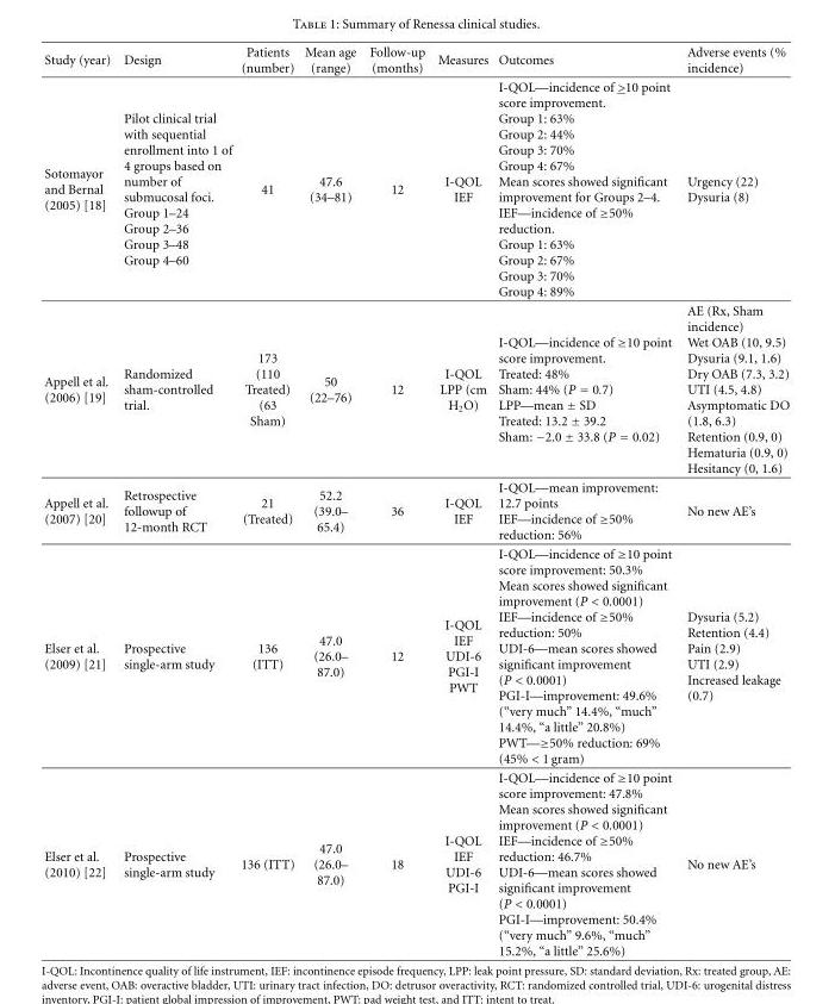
<table><thead><tr><td>Study (year)</td><td>Design</td><td>Patients (number)</td><td>Mean age (range)</td><td>Follow-up (months)</td><td>Measures</td><td>Outcomes</td><td>Adverse events (% incidence)</td></tr></thead><tbody><tr><td>Sotomayor and Bernal (2005) [18]</td><td>Pilot clinical trial with sequential enrollment into 1 of 4 groups based on number of submucosal foci. Group 1–24 Group 2–36 Group 3–48 Group 4–60</td><td>41</td><td>47.6 (34–81)</td><td>12</td><td>I-QOL IEF</td><td>I-QOL—incidence of &gt;10 point score improvement. Group 1: 63% Group 2: 44% Group 3: 70% Group 4: 67% Mean scores showed significant improvement for Groups 2–4. IEF—incidence of ≥50% reduction. Group 1: 63% Group 2: 67% Group 3: 70% Group 4: 89%</td><td>Urgency (22) Dysuria (8)</td></tr><tr><td>Appell et al. (2006) [19]</td><td>Randomized sham-controlled trial.</td><td>173 (110 Treated) (63 Sham)</td><td>50 (22–76)</td><td>12</td><td>I-QOL LPP (cm H<sub>2</sub>O)</td><td>I-QOL—incidence of ≥10 point score improvement. Treated: 48% Sham: 44% (P = 0.7) LPP—mean ± SD Treated: 13.2 ± 39.2 Sham: −2.0 ± 33.8 (P = 0.02)</td><td>AE (Rx, Sham incidence) Wet OAB (10, 9.5) Dysuria (9.1, 1.6) Dry OAB (7.3, 3.2) UTI (4.5, 4.8) Asymptomatic DO (1.8, 6.3) Retention (0.9, 0) Hematuria (0.9, 0) Hesitancy (0, 1.6)</td></tr><tr><td>Appell et al. (2007) [20]</td><td>Retrospective followup of 12-month RCT</td><td>21 (Treated)</td><td>52.2 (39.0– 65.4)</td><td>36</td><td>I-QOL IEF</td><td>I-QOL—mean improvement: 12.7 points IEF—incidence of ≥50% reduction: 56%</td><td>No new AE’s</td></tr><tr><td>Elser et al. (2009) [21]</td><td>Prospective single-arm study</td><td>136 (ITT)</td><td>47.0 (26.0– 87.0)</td><td>12</td><td>I-QOL IEF UDI-6 PGI-I PWT</td><td>I-QOL—incidence of ≥10 point score improvement: 50.3% Mean scores showed significant improvement (P &lt; 0.0001) IEF—incidence of ≥50% reduction: 50% UDI-6—mean scores showed significant improvement (P &lt; 0.0001) PGI-I—improvement: 49.6% (“very much” 14.4%, “much” 14.4%, “a little” 20.8%) PWT—≥50% reduction: 69% (45% &lt; 1 gram)</td><td>Dysuria (5.2) Retention (4.4) Pain (2.9) UTI (2.9) Increased leakage (0.7)</td></tr><tr><td>Elser et al. (2010) [22]</td><td>Prospective single-arm study</td><td>136 (ITT)</td><td>47.0 (26.0– 87.0)</td><td>18</td><td>I-QOL IEF UDI-6 PGI-I</td><td>I-QOL—incidence of ≥10 point score improvement: 47.8% Mean scores showed significant improvement (P &lt; 0.0001) IEF—incidence of ≥50% reduction: 46.7% UDI-6—mean scores showed significant improvement (P &lt; 0.0001) PGI-I—improvement: 50.4% (“very much” 9.6%, “much” 15.2%, “a little” 25.6%)</td><td>No new AE’s</td></tr></tbody></table>